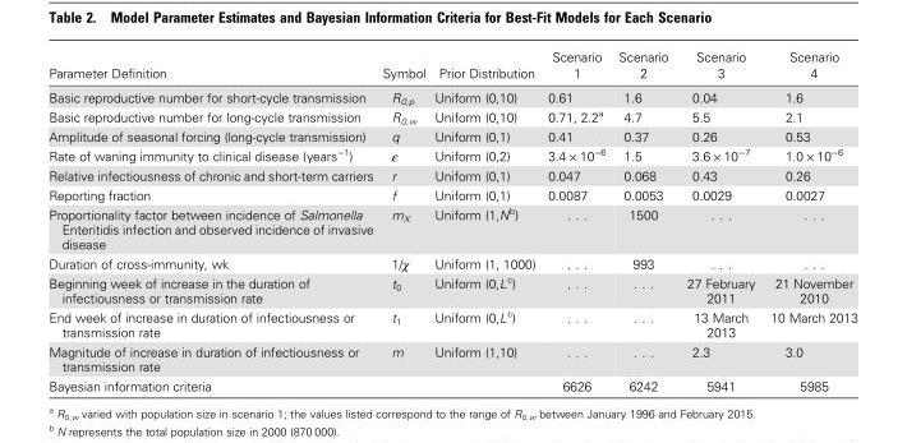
<table><thead><tr><td>Parameter Definition</td><td>Symbol</td><td>Prior Distribution</td><td>Scenario 1</td><td>Scenario 2</td><td>Scenario 3</td><td>Scenario 4</td></tr></thead><tbody><tr><td>Basic reproductive number for short-cycle transmission</td><td>R<sub>0,p</sub></td><td>Uniform (0,10)</td><td>0.61</td><td>1.6</td><td>0.04</td><td>1.6</td></tr><tr><td>Basic reproductive number for long-cycle transmission</td><td>R<sub>0,w</sub></td><td>Uniform (0,10)</td><td>0.71, 2.2<sup>a</sup></td><td>4.7</td><td>5.5</td><td>2.1</td></tr><tr><td>Amplitude of seasonal forcing (long-cycle transmission)</td><td>q</td><td>Uniform (0,1)</td><td>0.41</td><td>0.37</td><td>0.26</td><td>0.53</td></tr><tr><td>Rate of waning immunity to clinical disease (years<sup>−1</sup>)</td><td>ε</td><td>Uniform (0,2)</td><td>3.4 × 10<sup>−6</sup></td><td>1.5</td><td>3.6 × 10<sup>−7</sup></td><td>1.0 × 10<sup>−6</sup></td></tr><tr><td>Relative infectiousness of chronic and short-term carriers</td><td>r</td><td>Uniform (0,1)</td><td>0.047</td><td>0.068</td><td>0.43</td><td>0.26</td></tr><tr><td>Reporting fraction</td><td>f</td><td>Uniform (0,1)</td><td>0.0087</td><td>0.0053</td><td>0.0029</td><td>0.0027</td></tr><tr><td>Proportionality factor between incidence of Salmonella Enteritidis infection and observed incidence of invasive disease</td><td>m<sub>X</sub></td><td>Uniform (1,N<sup>b</sup>)</td><td>. . .</td><td>1500</td><td>. . .</td><td>. . .</td></tr><tr><td>Duration of cross-immunity, wk</td><td>1/χ</td><td>Uniform (1, 1000)</td><td>. . .</td><td>993</td><td>. . .</td><td>. . .</td></tr><tr><td>Beginning week of increase in the duration of infectiousness or transmission rate</td><td>t<sub>0</sub></td><td>Uniform (0,L<sup>c</sup>)</td><td>. . .</td><td>. . .</td><td>27 February 2011</td><td>21 November 2010</td></tr><tr><td>End week of increase in duration of infectiousness or transmission rate</td><td>t<sub>1</sub></td><td>Uniform (0,L<sup>c</sup>)</td><td>. . .</td><td>. . .</td><td>13 March 2013</td><td>10 March 2013</td></tr><tr><td>Magnitude of increase in duration of infectiousness or transmission rate</td><td>m</td><td>Uniform (1,10)</td><td>. . .</td><td>. . .</td><td>2.3</td><td>3.0</td></tr><tr><td>Bayesian information criteria</td><td></td><td></td><td>6626</td><td>6242</td><td>5941</td><td>5985</td></tr></tbody></table>